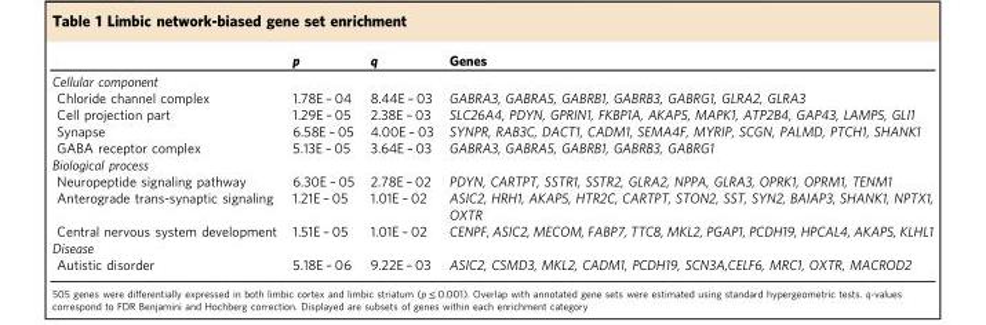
<table><thead><tr><td></td><td>p</td><td>q</td><td>Genes</td></tr></thead><tbody><tr><td colspan="4">Cellular component</td></tr><tr><td>Chloride channel complex</td><td>1.78E – 04</td><td>8.44E – 03</td><td>GABRA3, GABRA5, GABRB1, GABRB3, GABRG1, GLRA2, GLRA3</td></tr><tr><td>Cell projection part</td><td>1.29E – 05</td><td>2.38E – 03</td><td>SLC26A4, PDYN, GPRIN1, FKBP1A, AKAP5, MAPK1, ATP2B4, GAP43, LAMP5, GLI1</td></tr><tr><td>Synapse</td><td>6.58E – 05</td><td>4.00E – 03</td><td>SYNPR, RAB3C, DACT1, CADM1, SEMA4F, MYRIP, SCGN, PALMD, PTCH1, SHANK1</td></tr><tr><td>GABA receptor complex</td><td>5.13E – 05</td><td>3.64E – 03</td><td>GABRA3, GABRA5, GABRB1, GABRB3, GABRG1</td></tr><tr><td colspan="4">Biological process</td></tr><tr><td>Neuropeptide signaling pathway</td><td>6.30E – 05</td><td>2.78E – 02</td><td>PDYN, CARTPT, SSTR1, SSTR2, GLRA2, NPPA, GLRA3, OPRK1, OPRM1, TENM1</td></tr><tr><td>Anterograde trans-synaptic signaling</td><td>1.21E – 05</td><td>1.01E – 02</td><td>ASIC2, HRH1, AKAP5, HTR2C, CARTPT, STON2, SST, SYN2, BAIAP3, SHANK1, NPTX1, OXTR</td></tr><tr><td>Central nervous system development</td><td>1.51E – 05</td><td>1.01E – 02</td><td>CENPF, ASIC2, MECOM, FABP7, TTC8, MKL2, PGAP1, PCDH19, HPCAL4, AKAP5, KLHL1</td></tr><tr><td colspan="4">Disease</td></tr><tr><td>Autistic disorder</td><td>5.18E – 06</td><td>9.22E – 03</td><td>ASIC2, CSMD3, MKL2, CADM1, PCDH19, SCN3A,CELF6, MRC1, OXTR, MACROD2</td></tr></tbody></table>